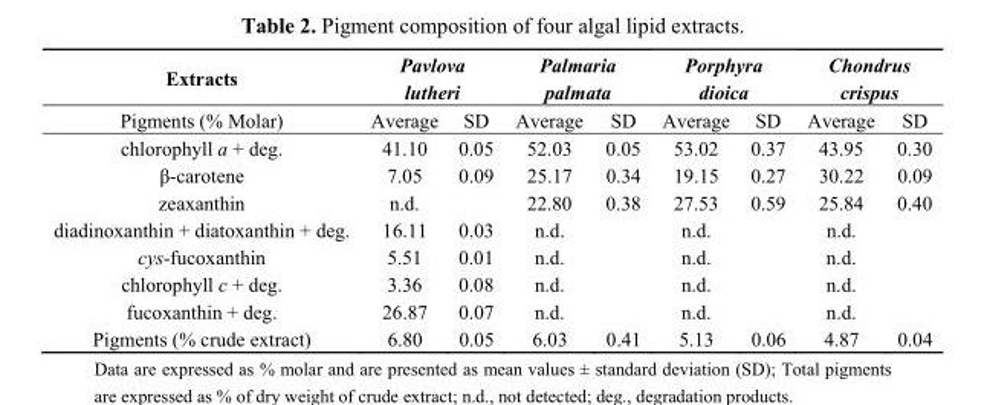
<table><thead><tr><td rowspan="2">Extracts Pigments (% Molar)</td><td colspan="2">Pavlova lutheri</td><td colspan="2">Palmaria palmata</td><td colspan="2">Porphyra dioica</td><td colspan="2">Chondrus crispus</td></tr><tr><td>Average</td><td>SD</td><td>Average</td><td>SD</td><td>Average</td><td>SD</td><td>Average</td><td>SD</td></tr></thead><tbody><tr><td>chlorophyll a + deg.</td><td>41.10</td><td>0.05</td><td>52.03</td><td>0.05</td><td>53.02</td><td>0.37</td><td>43.95</td><td>0.30</td></tr><tr><td>β-carotene</td><td>7.05</td><td>0.09</td><td>25.17</td><td>0.34</td><td>19.15</td><td>0.27</td><td>30.22</td><td>0.09</td></tr><tr><td>zeaxanthin</td><td>n.d.</td><td></td><td>22.80</td><td>0.38</td><td>27.53</td><td>0.59</td><td>25.84</td><td>0.40</td></tr><tr><td>diadinoxanthin + diatoxanthin + deg.</td><td>16.11</td><td>0.03</td><td>n.d.</td><td></td><td>n.d.</td><td></td><td>n.d.</td><td></td></tr><tr><td>cys-fucoxanthin</td><td>5.51</td><td>0.01</td><td>n.d.</td><td></td><td>n.d.</td><td></td><td>n.d.</td><td></td></tr><tr><td>chlorophyll c + deg.</td><td>3.36</td><td>0.08</td><td>n.d.</td><td></td><td>n.d.</td><td></td><td>n.d.</td><td></td></tr><tr><td>fucoxanthin + deg.</td><td>26.87</td><td>0.07</td><td>n.d.</td><td></td><td>n.d.</td><td></td><td>n.d.</td><td></td></tr><tr><td>Pigments (% crude extract)</td><td>6.80</td><td>0.05</td><td>6.03</td><td>0.41</td><td>5.13</td><td>0.06</td><td>4.87</td><td>0.04</td></tr></tbody></table>